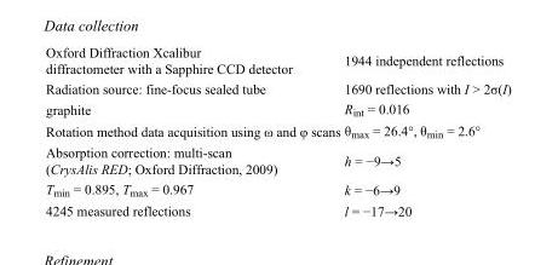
<table><tbody><tr><td>Oxford Diffraction Xcalibur diffractometer with a Sapphire CCD detector</td><td>1944 independent reflections</td></tr><tr><td>Radiation source: fine-focus sealed tube</td><td>1690 reflections with I &gt; 2σ(I)</td></tr><tr><td>graphite</td><td>R<sub>int</sub> = 0.016</td></tr><tr><td>Rotation method data acquisition using ω and φ scans</td><td>θ<sub>max</sub> = 26.4°, θ<sub>min</sub> = 2.6°</td></tr><tr><td>Absorption correction: multi-scan (CrysAlis RED; Oxford Diffraction, 2009)</td><td>h = −9→5</td></tr><tr><td>T<sub>min</sub> = 0.895, T<sub>max</sub> = 0.967</td><td>k = −6→9</td></tr><tr><td>4245 measured reflections</td><td>l = −17→20</td></tr></tbody></table>